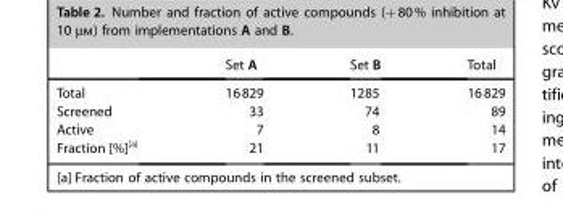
<table><thead><tr><td></td><td>Set A</td><td>Set B</td><td>Total</td></tr></thead><tbody><tr><td>Total</td><td>16829</td><td>1285</td><td>16829</td></tr><tr><td>Screened</td><td>33</td><td>74</td><td>89</td></tr><tr><td>Active</td><td>7</td><td>8</td><td>14</td></tr><tr><td>Fraction [%]<sup>[a]</sup></td><td>21</td><td>11</td><td>17</td></tr></tbody></table>